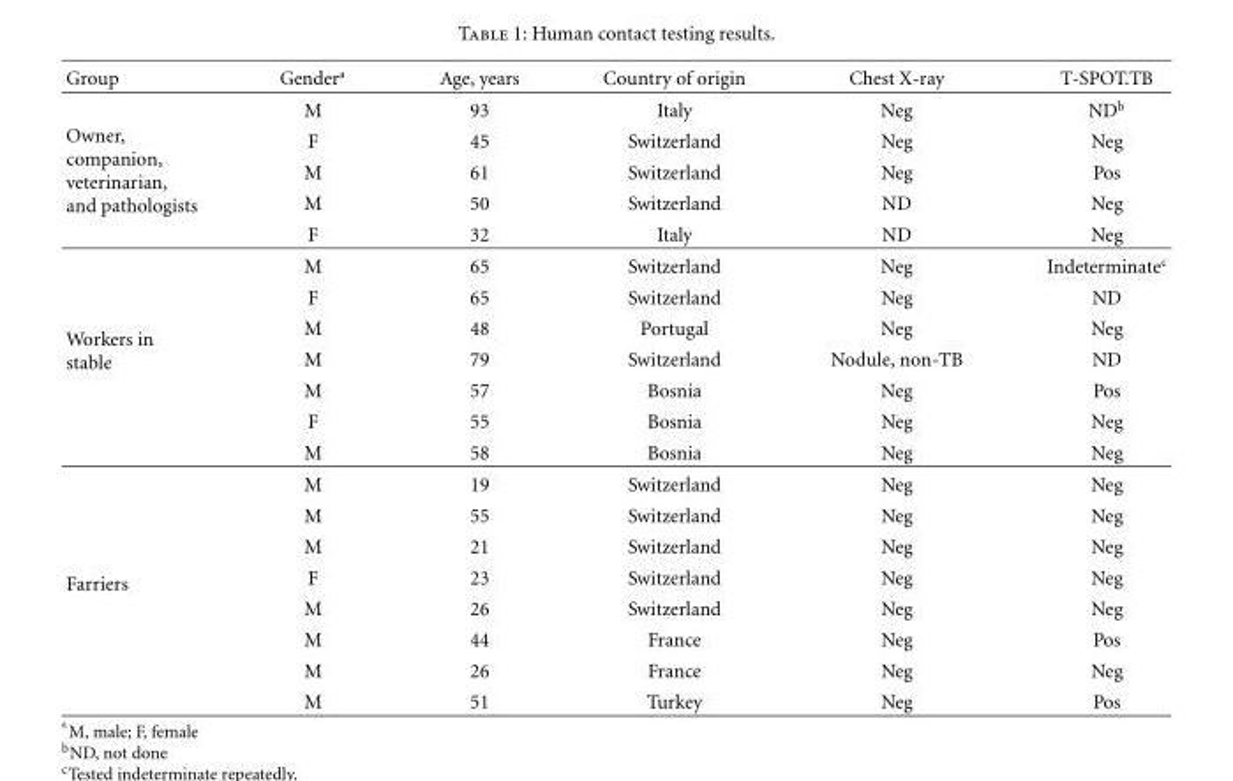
<table><thead><tr><td>Group</td><td>Gender<sup>a</sup></td><td>Age, years</td><td>Country of origin</td><td>Chest X-ray</td><td>T-SPOT.TB</td></tr></thead><tbody><tr><td></td><td>M</td><td>93</td><td>Italy</td><td>Neg</td><td>ND<sup>b</sup></td></tr><tr><td rowspan="4">Owner, companion, veterinarian, and pathologists</td><td>F</td><td>45</td><td>Switzerland</td><td>Neg</td><td>Neg</td></tr><tr><td>M</td><td>61</td><td>Switzerland</td><td>Neg</td><td>Pos</td></tr><tr><td>M</td><td>50</td><td>Switzerland</td><td>ND</td><td>Neg</td></tr><tr><td>F</td><td>32</td><td>Italy</td><td>ND</td><td>Neg</td></tr><tr><td rowspan="7">Workers in stable</td><td>M</td><td>65</td><td>Switzerland</td><td>Neg</td><td>Indeterminate<sup>c</sup></td></tr><tr><td>F</td><td>65</td><td>Switzerland</td><td>Neg</td><td>ND</td></tr><tr><td>M</td><td>48</td><td>Portugal</td><td>Neg</td><td>Neg</td></tr><tr><td>M</td><td>79</td><td>Switzerland</td><td>Nodule, non-TB</td><td>ND</td></tr><tr><td>M</td><td>57</td><td>Bosnia</td><td>Neg</td><td>Pos</td></tr><tr><td>F</td><td>55</td><td>Bosnia</td><td>Neg</td><td>Neg</td></tr><tr><td>M</td><td>58</td><td>Bosnia</td><td>Neg</td><td>Neg</td></tr><tr><td rowspan="8">Farriers</td><td>M</td><td>19</td><td>Switzerland</td><td>Neg</td><td>Neg</td></tr><tr><td>M</td><td>55</td><td>Switzerland</td><td>Neg</td><td>Neg</td></tr><tr><td>M</td><td>21</td><td>Switzerland</td><td>Neg</td><td>Neg</td></tr><tr><td>F</td><td>23</td><td>Switzerland</td><td>Neg</td><td>Neg</td></tr><tr><td>M</td><td>26</td><td>Switzerland</td><td>Neg</td><td>Neg</td></tr><tr><td>M</td><td>44</td><td>France</td><td>Neg</td><td>Pos</td></tr><tr><td>M</td><td>26</td><td>France</td><td>Neg</td><td>Neg</td></tr><tr><td>M</td><td>51</td><td>Turkey</td><td>Neg</td><td>Pos</td></tr></tbody></table>